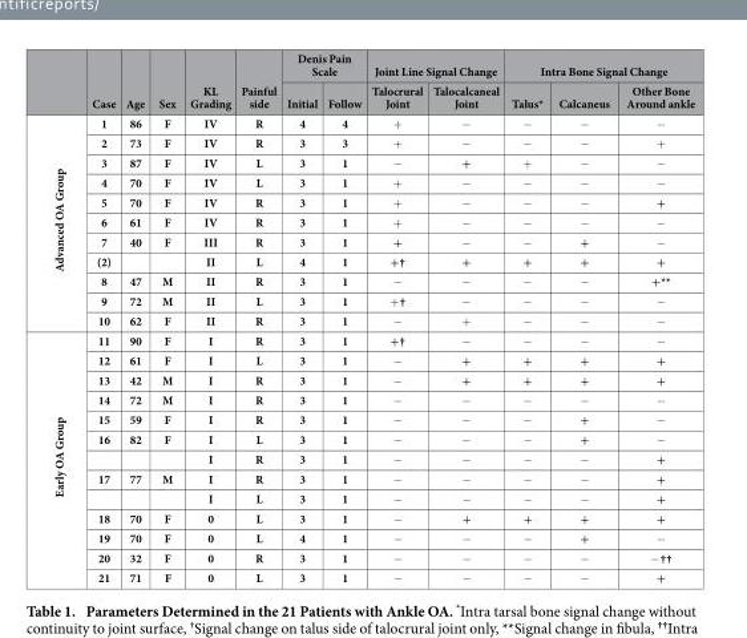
<table><thead><tr><td rowspan="2"></td><td rowspan="2">Case</td><td rowspan="2">Age</td><td rowspan="2">Sex</td><td rowspan="2">KL Grading</td><td rowspan="2">Painful side</td><td colspan="2">Denis Pain Scale</td><td colspan="2">Joint Line Signal Change</td><td colspan="3">Intra Bone Signal Change</td></tr><tr><td>Initial</td><td>Follow</td><td>Talocrural Joint</td><td>Talocalcaneal Joint</td><td>Talus*</td><td>Calcaneus</td><td>Other Bone Around ankle</td></tr></thead><tbody><tr><td rowspan="11">Advanced OA Group</td><td>1</td><td>86</td><td>F</td><td>IV</td><td>R</td><td>4</td><td>4</td><td>+</td><td>−</td><td>−</td><td>−</td><td>−</td></tr><tr><td>2</td><td>73</td><td>F</td><td>IV</td><td>R</td><td>3</td><td>3</td><td>+</td><td>−</td><td>−</td><td>−</td><td>+</td></tr><tr><td>3</td><td>87</td><td>F</td><td>IV</td><td>L</td><td>3</td><td>1</td><td>−</td><td>+</td><td>+</td><td>−</td><td>−</td></tr><tr><td>4</td><td>70</td><td>F</td><td>IV</td><td>L</td><td>3</td><td>1</td><td>+</td><td>−</td><td>−</td><td>−</td><td>−</td></tr><tr><td>5</td><td>70</td><td>F</td><td>IV</td><td>R</td><td>3</td><td>1</td><td>+</td><td>−</td><td>−</td><td>−</td><td>+</td></tr><tr><td>6</td><td>61</td><td>F</td><td>IV</td><td>R</td><td>3</td><td>1</td><td>+</td><td>−</td><td>−</td><td>−</td><td>−</td></tr><tr><td>7</td><td>40</td><td>F</td><td>III</td><td>R</td><td>3</td><td>1</td><td>+</td><td>−</td><td>−</td><td>+</td><td>−</td></tr><tr><td>(2)</td><td></td><td></td><td>II</td><td>L</td><td>4</td><td>1</td><td>+†</td><td>+</td><td>+</td><td>+</td><td>+</td></tr><tr><td>8</td><td>47</td><td>M</td><td>II</td><td>R</td><td>3</td><td>1</td><td>−</td><td>−</td><td>−</td><td>−</td><td>+**</td></tr><tr><td>9</td><td>72</td><td>M</td><td>II</td><td>L</td><td>3</td><td>1</td><td>+ †</td><td>−</td><td>−</td><td>−</td><td>−</td></tr><tr><td>10</td><td>62</td><td>F</td><td>II</td><td>R</td><td>3</td><td>1</td><td>−</td><td>+</td><td>−</td><td>−</td><td>−</td></tr><tr><td rowspan="13">Early OA Group</td><td>11</td><td>90</td><td>F</td><td>I</td><td>R</td><td>3</td><td>1</td><td>+†</td><td>−</td><td>−</td><td>−</td><td>−</td></tr><tr><td>12</td><td>61</td><td>F</td><td>I</td><td>L</td><td>3</td><td>1</td><td>−</td><td>+</td><td>+</td><td>+</td><td>+</td></tr><tr><td>13</td><td>42</td><td>M</td><td>I</td><td>R</td><td>3</td><td>1</td><td>−</td><td>+</td><td>+</td><td>+</td><td>+</td></tr><tr><td>14</td><td>72</td><td>M</td><td>I</td><td>R</td><td>3</td><td>1</td><td>−</td><td>−</td><td>−</td><td>−</td><td>−</td></tr><tr><td>15</td><td>59</td><td>F</td><td>I</td><td>R</td><td>3</td><td>1</td><td>−</td><td>−</td><td>−</td><td>+</td><td>−</td></tr><tr><td>16</td><td>82</td><td>F</td><td>I</td><td>L</td><td>3</td><td>1</td><td>−</td><td>−</td><td>−</td><td>+</td><td>−</td></tr><tr><td></td><td></td><td></td><td>I</td><td>R</td><td>3</td><td>1</td><td>−</td><td>−</td><td>−</td><td>−</td><td>+</td></tr><tr><td>17</td><td>77</td><td>M</td><td>I</td><td>R</td><td>3</td><td>1</td><td>−</td><td>−</td><td>−</td><td>−</td><td>+</td></tr><tr><td></td><td></td><td></td><td>I</td><td>L</td><td>3</td><td>1</td><td>−</td><td>−</td><td>−</td><td>−</td><td>+</td></tr><tr><td>18</td><td>70</td><td>F</td><td>0</td><td>L</td><td>3</td><td>1</td><td>−</td><td>+</td><td>+</td><td>+</td><td>+</td></tr><tr><td>19</td><td>70</td><td>F</td><td>0</td><td>L</td><td>4</td><td>1</td><td>−</td><td>−</td><td>−</td><td>+</td><td>−</td></tr><tr><td>20</td><td>32</td><td>F</td><td>0</td><td>R</td><td>3</td><td>1</td><td>−</td><td>−</td><td>−</td><td>−</td><td>− ††</td></tr><tr><td>21</td><td>71</td><td>F</td><td>0</td><td>L</td><td>3</td><td>1</td><td>−</td><td>−</td><td>−</td><td>−</td><td>+</td></tr></tbody></table>